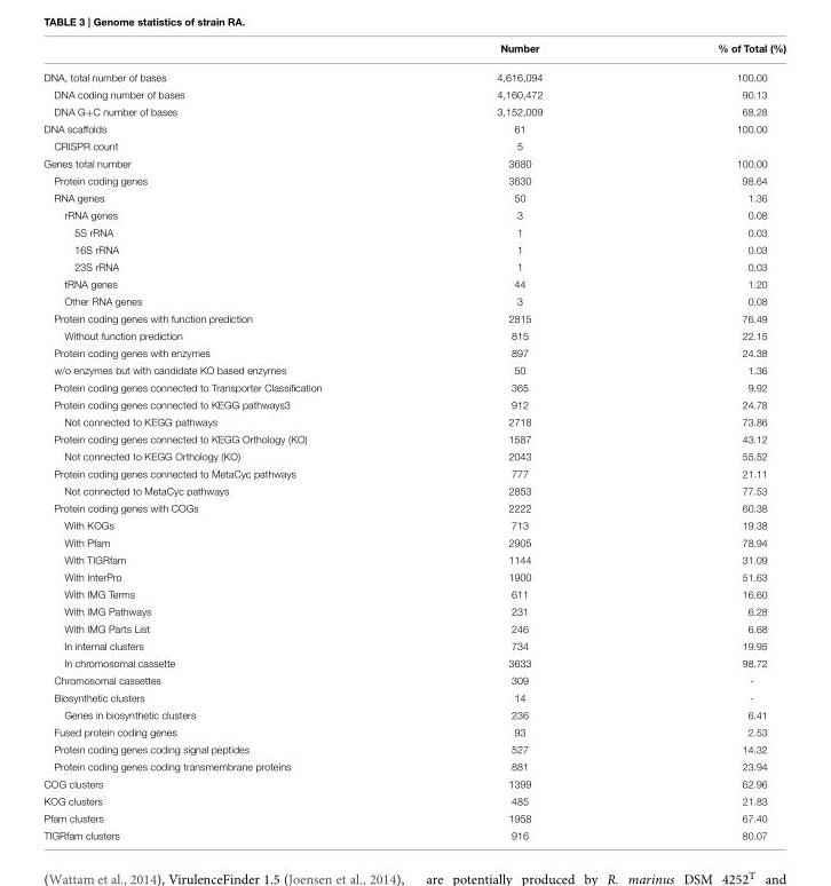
<table><thead><tr><td></td><td>Number</td><td>% of Total (%)</td></tr></thead><tbody><tr><td>DNA, total number of bases</td><td>4,616,094</td><td>100.00</td></tr><tr><td>DNA coding number of bases</td><td>4,160,472</td><td>90.13</td></tr><tr><td>DNA G+C number of bases</td><td>3,152,009</td><td>68.28</td></tr><tr><td>DNA scaffolds</td><td>61</td><td>100.00</td></tr><tr><td>CRISPR count</td><td>5</td><td></td></tr><tr><td>Genes total number</td><td>3680</td><td>100.00</td></tr><tr><td>Protein coding genes</td><td>3630</td><td>98.64</td></tr><tr><td>RNA genes</td><td>50</td><td>1.36</td></tr><tr><td>rRNA genes</td><td>3</td><td>0.08</td></tr><tr><td>5S rRNA</td><td>1</td><td>0.03</td></tr><tr><td>16S rRNA</td><td>1</td><td>0.03</td></tr><tr><td>23S rRNA</td><td>1</td><td>0.03</td></tr><tr><td>tRNA genes</td><td>44</td><td>1.20</td></tr><tr><td>Other RNA genes</td><td>3</td><td>0.08</td></tr><tr><td>Protein coding genes with function prediction</td><td>2815</td><td>76.49</td></tr><tr><td>Without function prediction</td><td>815</td><td>22.15</td></tr><tr><td>Protein coding genes with enzymes</td><td>897</td><td>24.38</td></tr><tr><td>w/o enzymes but with candidate KO based enzymes</td><td>50</td><td>1.36</td></tr><tr><td>Protein coding genes connected to Transporter Classification</td><td>365</td><td>9.92</td></tr><tr><td>Protein coding genes connected to KEGG pathways3</td><td>912</td><td>24.78</td></tr><tr><td>Not connected to KEGG pathways</td><td>2718</td><td>73.86</td></tr><tr><td>Protein coding genes connected to KEGG Orthology (KO)</td><td>1587</td><td>43.12</td></tr><tr><td>Not connected to KEGG Orthology (KO)</td><td>2043</td><td>55.52</td></tr><tr><td>Protein coding genes connected to MetaCyc pathways</td><td>777</td><td>21.11</td></tr><tr><td>Not connected to MetaCyc pathways</td><td>2853</td><td>77.53</td></tr><tr><td>Protein coding genes with COGs</td><td>2222</td><td>60.38</td></tr><tr><td>With KOGs</td><td>713</td><td>19.38</td></tr><tr><td>With Pfam</td><td>2905</td><td>78.94</td></tr><tr><td>With TIGRfam</td><td>1144</td><td>31.09</td></tr><tr><td>With InterPro</td><td>1900</td><td>51.63</td></tr><tr><td>With IMG Terms</td><td>611</td><td>16.60</td></tr><tr><td>With IMG Pathways</td><td>231</td><td>6.28</td></tr><tr><td>With IMG Parts List</td><td>246</td><td>6.68</td></tr><tr><td>In internal clusters</td><td>734</td><td>19.95</td></tr><tr><td>In chromosomal cassette</td><td>3633</td><td>98.72</td></tr><tr><td>Chromosomal cassettes</td><td>309</td><td>-</td></tr><tr><td>Biosynthetic clusters</td><td>14</td><td>-</td></tr><tr><td>Genes in biosynthetic clusters</td><td>236</td><td>6.41</td></tr><tr><td>Fused protein coding genes</td><td>93</td><td>2.53</td></tr><tr><td>Protein coding genes coding signal peptides</td><td>527</td><td>14.32</td></tr><tr><td>Protein coding genes coding transmembrane proteins</td><td>881</td><td>23.94</td></tr><tr><td>COG clusters</td><td>1399</td><td>62.96</td></tr><tr><td>KOG clusters</td><td>485</td><td>21.83</td></tr><tr><td>Pfam clusters</td><td>1958</td><td>67.40</td></tr><tr><td>TIGRfam clusters</td><td>916</td><td>80.07</td></tr></tbody></table>